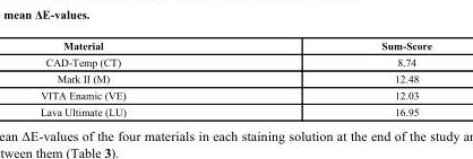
<table><thead><tr><td>Material</td><td>Sum-Score</td></tr></thead><tbody><tr><td>CAD-Temp (CT)</td><td>8.74</td></tr><tr><td>Mark II (M)</td><td>12.48</td></tr><tr><td>VITA Enamic (VE)</td><td>12.03</td></tr><tr><td>Lava Ultimate (LU)</td><td>16.95</td></tr></tbody></table>